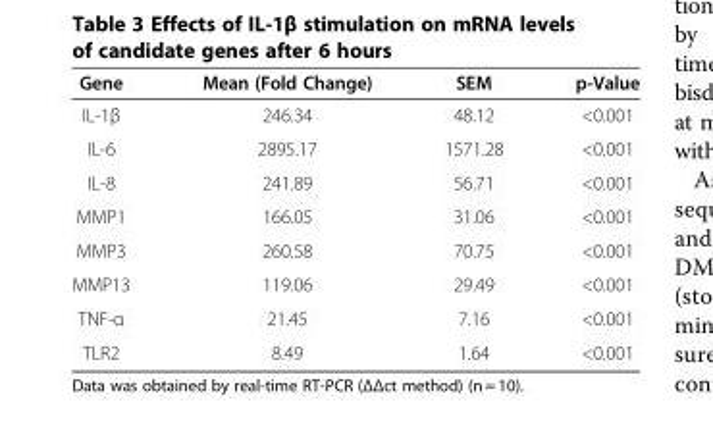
<table><thead><tr><td>Gene</td><td>Mean (Fold Change)</td><td>SEM</td><td>p-Value</td></tr></thead><tbody><tr><td>IL-1β</td><td>246.34</td><td>48.12</td><td>&lt;0.001</td></tr><tr><td>IL-6</td><td>2895.17</td><td>1571.28</td><td>&lt;0.001</td></tr><tr><td>IL-8</td><td>241.89</td><td>56.71</td><td>&lt;0.001</td></tr><tr><td>MMP1</td><td>166.05</td><td>31.06</td><td>&lt;0.001</td></tr><tr><td>MMP3</td><td>260.58</td><td>70.75</td><td>&lt;0.001</td></tr><tr><td>MMP13</td><td>119.06</td><td>29.49</td><td>&lt;0.001</td></tr><tr><td>TNF-α</td><td>21.45</td><td>7.16</td><td>&lt;0.001</td></tr><tr><td>TLR2</td><td>8.49</td><td>1.64</td><td>&lt;0.001</td></tr></tbody></table>